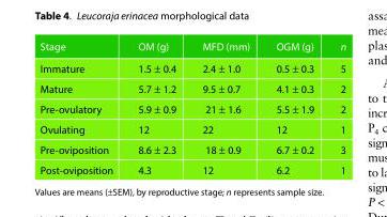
<table><thead><tr><td>Stage</td><td>OM (g)</td><td>MFD (mm)</td><td>OGM (g)</td><td>n</td></tr></thead><tbody><tr><td>Immature</td><td>1.5 ± 0.4</td><td>2.4 ± 1.0</td><td>0.5 ± 0.3</td><td>5</td></tr><tr><td>Mature</td><td>5.7 ± 1.2</td><td>9.5 ± 0.7</td><td>4.1 ± 0.3</td><td>2</td></tr><tr><td>Pre-ovulatory</td><td>5.9 ± 0.9</td><td>21 ± 1.6</td><td>5.5 ± 1.9</td><td>2</td></tr><tr><td>Ovulating</td><td>12</td><td>22</td><td>12</td><td>1</td></tr><tr><td>Pre-oviposition</td><td>8.6 ± 2.3</td><td>18 ± 0.9</td><td>6.7 ± 0.2</td><td>3</td></tr><tr><td>Post-oviposition</td><td>4.3</td><td>12</td><td>6.2</td><td>1</td></tr></tbody></table>